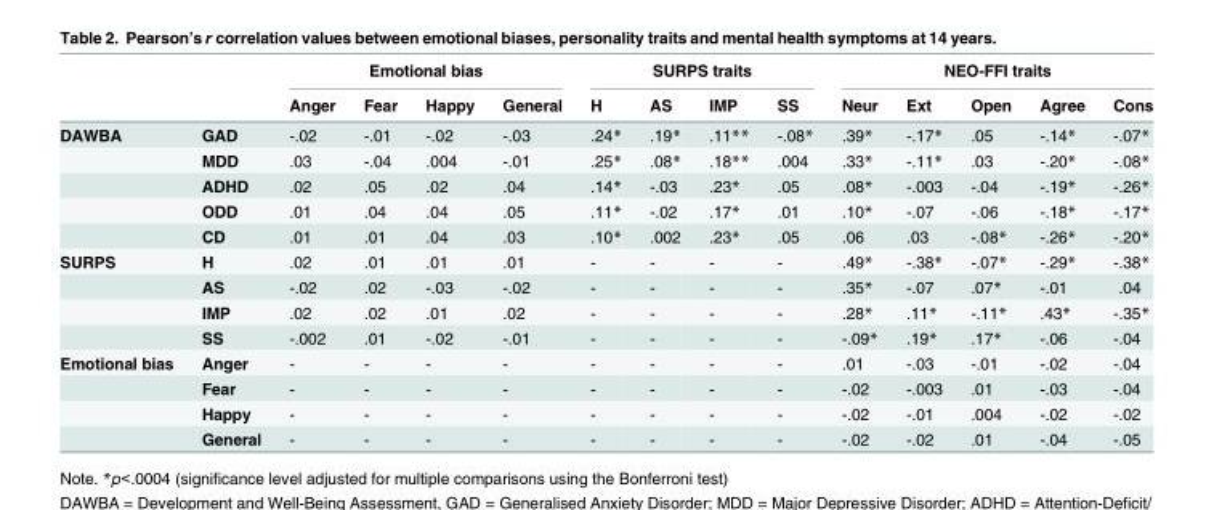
<table><thead><tr><td rowspan="2"></td><td rowspan="2"></td><td colspan="4">Emotional bias</td><td colspan="4">SURPS traits</td><td colspan="5">NEO-FFI traits</td></tr><tr><td>Anger</td><td>Fear</td><td>Happy</td><td>General</td><td>H</td><td>AS</td><td>IMP</td><td>SS</td><td>Neur</td><td>Ext</td><td>Open</td><td>Agree</td><td>Cons</td></tr></thead><tbody><tr><td rowspan="5">DAWBA</td><td>GAD</td><td>-.02</td><td>-.01</td><td>-.02</td><td>-.03</td><td>.24*</td><td>.19*</td><td>.11**</td><td>-.08*</td><td>.39*</td><td>-.17*</td><td>.05</td><td>-.14*</td><td>-.07*</td></tr><tr><td>MDD</td><td>.03</td><td>-.04</td><td>.004</td><td>-.01</td><td>.25*</td><td>.08*</td><td>.18**</td><td>.004</td><td>.33*</td><td>-.11*</td><td>.03</td><td>-.20*</td><td>-.08*</td></tr><tr><td>ADHD</td><td>.02</td><td>.05</td><td>.02</td><td>.04</td><td>.14*</td><td>-.03</td><td>.23*</td><td>.05</td><td>.08*</td><td>-.003</td><td>-.04</td><td>-.19*</td><td>-.26*</td></tr><tr><td>ODD</td><td>.01</td><td>.04</td><td>.04</td><td>.05</td><td>.11*</td><td>-.02</td><td>.17*</td><td>.01</td><td>.10*</td><td>-.07</td><td>-.06</td><td>-.18*</td><td>-.17*</td></tr><tr><td>CD</td><td>.01</td><td>.01</td><td>.04</td><td>.03</td><td>.10*</td><td>.002</td><td>.23*</td><td>.05</td><td>.06</td><td>.03</td><td>-.08*</td><td>-.26*</td><td>-.20*</td></tr><tr><td rowspan="4">SURPS</td><td>H</td><td>.02</td><td>.01</td><td>.01</td><td>.01</td><td>-</td><td>-</td><td>-</td><td>-</td><td>.49*</td><td>-.38*</td><td>-.07*</td><td>-.29*</td><td>-.38*</td></tr><tr><td>AS</td><td>-.02</td><td>.02</td><td>-.03</td><td>-.02</td><td>-</td><td>-</td><td>-</td><td>-</td><td>.35*</td><td>-.07</td><td>.07*</td><td>-.01</td><td>.04</td></tr><tr><td>IMP</td><td>.02</td><td>.02</td><td>.01</td><td>.02</td><td>-</td><td>-</td><td>-</td><td>-</td><td>.28*</td><td>.11*</td><td>-.11*</td><td>.43*</td><td>-.35*</td></tr><tr><td>SS</td><td>-.002</td><td>.01</td><td>-.02</td><td>-.01</td><td>-</td><td>-</td><td>-</td><td>-</td><td>-.09*</td><td>.19*</td><td>.17*</td><td>-.06</td><td>-.04</td></tr><tr><td rowspan="4">Emotional bias</td><td>Anger</td><td>-</td><td>-</td><td>-</td><td>-</td><td>-</td><td>-</td><td>-</td><td>-</td><td>.01</td><td>-.03</td><td>-.01</td><td>-.02</td><td>-.04</td></tr><tr><td>Fear</td><td>-</td><td>-</td><td>-</td><td>-</td><td>-</td><td>-</td><td>-</td><td>-</td><td>-.02</td><td>-.003</td><td>.01</td><td>-.03</td><td>-.04</td></tr><tr><td>Happy</td><td>-</td><td>-</td><td>-</td><td>-</td><td>-</td><td>-</td><td>-</td><td>-</td><td>-.02</td><td>-.01</td><td>.004</td><td>-.02</td><td>-.02</td></tr><tr><td>General</td><td>-</td><td>-</td><td>-</td><td>-</td><td>-</td><td>-</td><td>-</td><td>-</td><td>-.02</td><td>-.02</td><td>.01</td><td>-.04</td><td>-.05</td></tr></tbody></table>